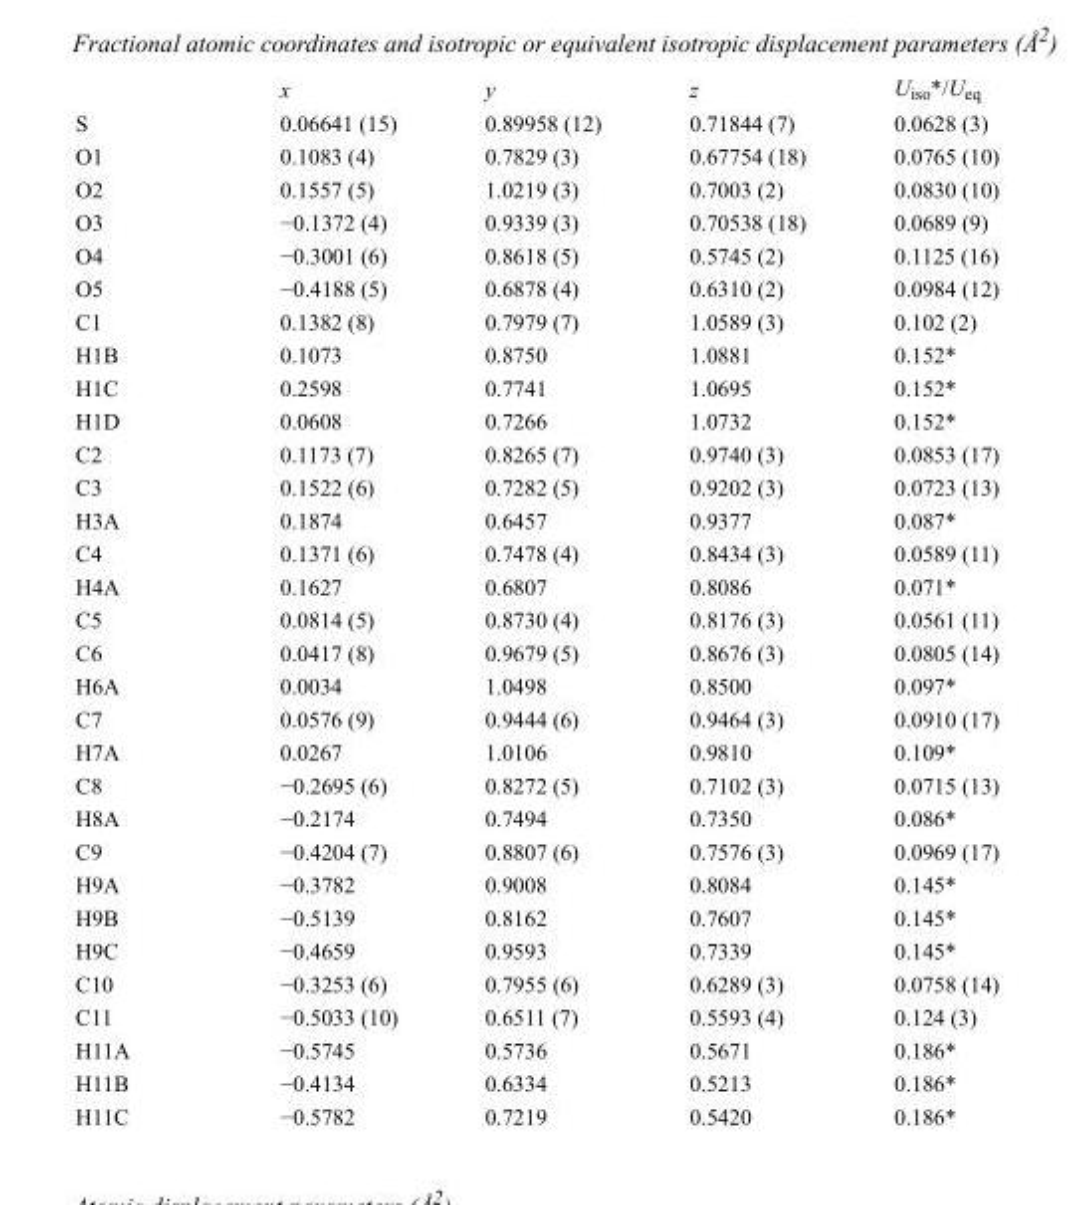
<table><thead><tr><td></td><td>x</td><td>y</td><td>z</td><td>U<sub>iso</sub>*/U<sub>eq</sub></td></tr></thead><tbody><tr><td>S</td><td>0.06641 (15)</td><td>0.89958 (12)</td><td>0.71844 (7)</td><td>0.0628 (3)</td></tr><tr><td>O1</td><td>0.1083 (4)</td><td>0.7829 (3)</td><td>0.67754 (18)</td><td>0.0765 (10)</td></tr><tr><td>O2</td><td>0.1557 (5)</td><td>1.0219 (3)</td><td>0.7003 (2)</td><td>0.0830 (10)</td></tr><tr><td>O3</td><td>−0.1372 (4)</td><td>0.9339 (3)</td><td>0.70538 (18)</td><td>0.0689 (9)</td></tr><tr><td>O4</td><td>−0.3001 (6)</td><td>0.8618 (5)</td><td>0.5745 (2)</td><td>0.1125 (16)</td></tr><tr><td>O5</td><td>−0.4188 (5)</td><td>0.6878 (4)</td><td>0.6310 (2)</td><td>0.0984 (12)</td></tr><tr><td>C1</td><td>0.1382 (8)</td><td>0.7979 (7)</td><td>1.0589 (3)</td><td>0.102 (2)</td></tr><tr><td>H1B</td><td>0.1073</td><td>0.8750</td><td>1.0881</td><td>0.152*</td></tr><tr><td>H1C</td><td>0.2598</td><td>0.7741</td><td>1.0695</td><td>0.152*</td></tr><tr><td>H1D</td><td>0.0608</td><td>0.7266</td><td>1.0732</td><td>0.152*</td></tr><tr><td>C2</td><td>0.1173 (7)</td><td>0.8265 (7)</td><td>0.9740 (3)</td><td>0.0853 (17)</td></tr><tr><td>C3</td><td>0.1522 (6)</td><td>0.7282 (5)</td><td>0.9202 (3)</td><td>0.0723 (13)</td></tr><tr><td>H3A</td><td>0.1874</td><td>0.6457</td><td>0.9377</td><td>0.087*</td></tr><tr><td>C4</td><td>0.1371 (6)</td><td>0.7478 (4)</td><td>0.8434 (3)</td><td>0.0589 (11)</td></tr><tr><td>H4A</td><td>0.1627</td><td>0.6807</td><td>0.8086</td><td>0.071*</td></tr><tr><td>C5</td><td>0.0814 (5)</td><td>0.8730 (4)</td><td>0.8176 (3)</td><td>0.0561 (11)</td></tr><tr><td>C6</td><td>0.0417 (8)</td><td>0.9679 (5)</td><td>0.8676 (3)</td><td>0.0805 (14)</td></tr><tr><td>H6A</td><td>0.0034</td><td>1.0498</td><td>0.8500</td><td>0.097*</td></tr><tr><td>C7</td><td>0.0576 (9)</td><td>0.9444 (6)</td><td>0.9464 (3)</td><td>0.0910 (17)</td></tr><tr><td>H7A</td><td>0.0267</td><td>1.0106</td><td>0.9810</td><td>0.109*</td></tr><tr><td>C8</td><td>−0.2695 (6)</td><td>0.8272 (5)</td><td>0.7102 (3)</td><td>0.0715 (13)</td></tr><tr><td>H8A</td><td>−0.2174</td><td>0.7494</td><td>0.7350</td><td>0.086*</td></tr><tr><td>C9</td><td>−0.4204 (7)</td><td>0.8807 (6)</td><td>0.7576 (3)</td><td>0.0969 (17)</td></tr><tr><td>H9A</td><td>−0.3782</td><td>0.9008</td><td>0.8084</td><td>0.145*</td></tr><tr><td>H9B</td><td>−0.5139</td><td>0.8162</td><td>0.7607</td><td>0.145*</td></tr><tr><td>H9C</td><td>−0.4659</td><td>0.9593</td><td>0.7339</td><td>0.145*</td></tr><tr><td>C10</td><td>−0.3253 (6)</td><td>0.7955 (6)</td><td>0.6289 (3)</td><td>0.0758 (14)</td></tr><tr><td>C11</td><td>−0.5033 (10)</td><td>0.6511 (7)</td><td>0.5593 (4)</td><td>0.124 (3)</td></tr><tr><td>H11A</td><td>−0.5745</td><td>0.5736</td><td>0.5671</td><td>0.186*</td></tr><tr><td>H11B</td><td>−0.4134</td><td>0.6334</td><td>0.5213</td><td>0.186*</td></tr><tr><td>H11C</td><td>−0.5782</td><td>0.7219</td><td>0.5420</td><td>0.186*</td></tr></tbody></table>